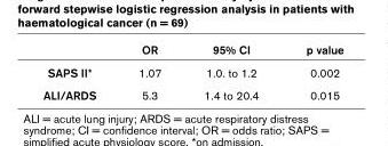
<table><thead><tr><td></td><td>OR</td><td>95% CI</td><td>p value</td></tr></thead><tbody><tr><td>SAPS II*</td><td>1.07</td><td>1.0. to 1.2</td><td>0.002</td></tr><tr><td>ALI/ARDS</td><td>5.3</td><td>1.4 to 20.4</td><td>0.015</td></tr></tbody></table>